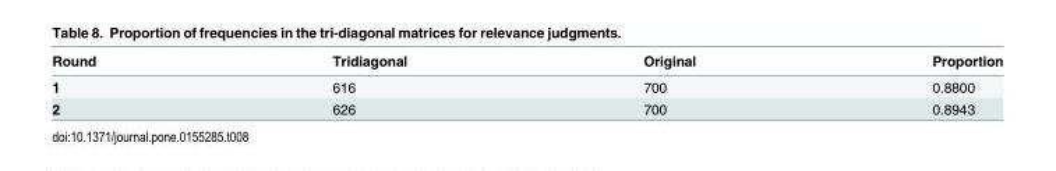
<table><thead><tr><td>Round</td><td>Tridiagonal</td><td>Original</td><td>Proportion</td></tr></thead><tbody><tr><td>1</td><td>616</td><td>700</td><td>0.8800</td></tr><tr><td>2</td><td>626</td><td>700</td><td>0.8943</td></tr></tbody></table>